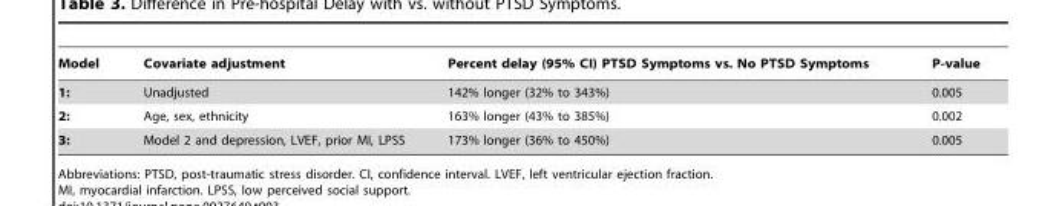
<table><thead><tr><td>Model</td><td>Covariate adjustment</td><td>Percent delay (95% CI) PTSD Symptoms vs. No PTSD Symptoms</td><td>P-value</td></tr></thead><tbody><tr><td>1:</td><td>Unadjusted</td><td>142% longer (32% to 343%)</td><td>0.005</td></tr><tr><td>2:</td><td>Age, sex, ethnicity</td><td>163% longer (43% to 385%)</td><td>0.002</td></tr><tr><td>3:</td><td>Model 2 and depression, LVEF, prior MI, LPSS</td><td>173% longer (36% to 450%)</td><td>0.005</td></tr></tbody></table>